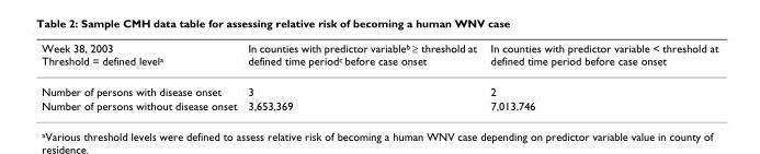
<table><thead><tr><td>Week 38, 2003 Threshold = defined level<sup>a</sup></td><td>In counties with predictor variable<sup>b</sup> ≥ threshold at defined time period<sup>c</sup> before case onset</td><td>In counties with predictor variable &lt; threshold at defined time period before case onset</td></tr></thead><tbody><tr><td>Number of persons with disease onset</td><td>3</td><td>2</td></tr><tr><td>Number of persons without disease onset</td><td>3,653,369</td><td>7,013,746</td></tr></tbody></table>